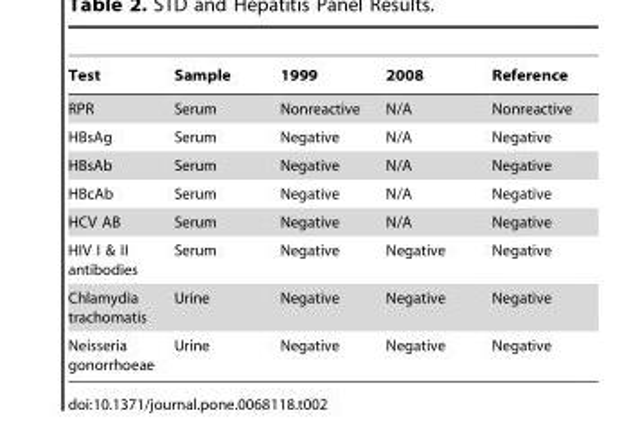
<table><thead><tr><td>Test</td><td>Sample</td><td>1999</td><td>2008</td><td>Reference</td></tr></thead><tbody><tr><td>RPR</td><td>Serum</td><td>Nonreactive</td><td>N/A</td><td>Nonreactive</td></tr><tr><td>HBsAg</td><td>Serum</td><td>Negative</td><td>N/A</td><td>Negative</td></tr><tr><td>HBsAb</td><td>Serum</td><td>Negative</td><td>N/A</td><td>Negative</td></tr><tr><td>HBcAb</td><td>Serum</td><td>Negative</td><td>N/A</td><td>Negative</td></tr><tr><td>HCV AB</td><td>Serum</td><td>Negative</td><td>N/A</td><td>Negative</td></tr><tr><td>HIV I &amp; II antibodies</td><td>Serum</td><td>Negative</td><td>Negative</td><td>Negative</td></tr><tr><td>Chlamydia trachomatis</td><td>Urine</td><td>Negative</td><td>Negative</td><td>Negative</td></tr><tr><td>Neisseria gonorrhoeae</td><td>Urine</td><td>Negative</td><td>Negative</td><td>Negative</td></tr></tbody></table>